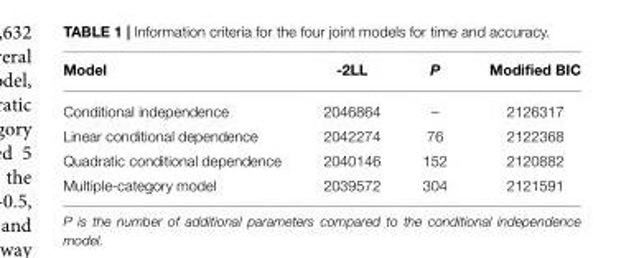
<table><thead><tr><td>Model</td><td>-2LL</td><td>P</td><td>Modified BIC</td></tr></thead><tbody><tr><td>Conditional independence</td><td>2046864</td><td>–</td><td>2126317</td></tr><tr><td>Linear conditional dependence</td><td>2042274</td><td>76</td><td>2122368</td></tr><tr><td>Quadratic conditional dependence</td><td>2040146</td><td>152</td><td>2120882</td></tr><tr><td>Multiple-category model</td><td>2039572</td><td>304</td><td>2121591</td></tr></tbody></table>